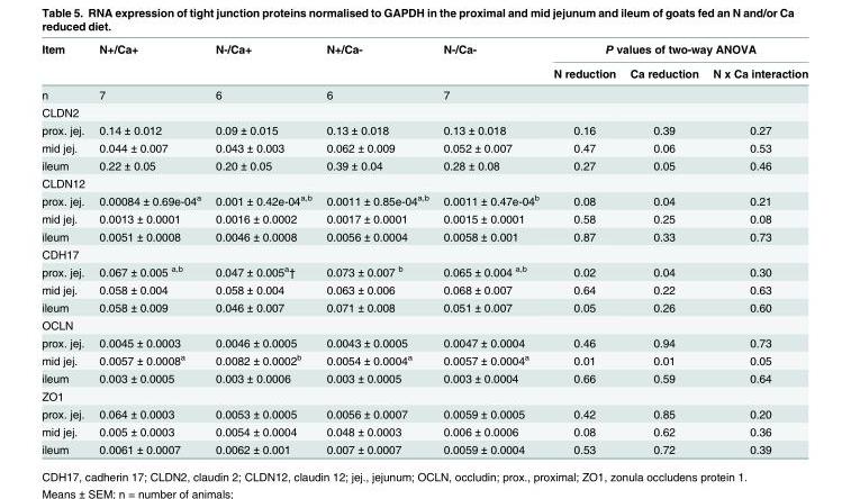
<table><thead><tr><td rowspan="2">Item</td><td rowspan="2">N+/Ca+</td><td rowspan="2">N-/Ca+</td><td rowspan="2">N+/Ca-</td><td rowspan="2">N-/Ca-</td><td colspan="3">P values of two-way ANOVA</td></tr><tr><td>N reduction</td><td>Ca reduction</td><td>N x Ca interaction</td></tr></thead><tbody><tr><td>n</td><td>7</td><td>6</td><td>6</td><td>7</td><td></td><td></td><td></td></tr><tr><td colspan="8">CLDN2</td></tr><tr><td>prox. jej.</td><td>0.14 ± 0.012</td><td>0.09 ± 0.015</td><td>0.13 ± 0.018</td><td>0.13 ± 0.018</td><td>0.16</td><td>0.39</td><td>0.27</td></tr><tr><td>mid jej.</td><td>0.044 ± 0.007</td><td>0.043 ± 0.003</td><td>0.062 ± 0.009</td><td>0.052 ± 0.007</td><td>0.47</td><td>0.06</td><td>0.53</td></tr><tr><td>ileum</td><td>0.22 ± 0.05</td><td>0.20 ± 0.05</td><td>0.39 ± 0.04</td><td>0.28 ± 0.08</td><td>0.27</td><td>0.05</td><td>0.46</td></tr><tr><td colspan="8">CLDN12</td></tr><tr><td>prox. jej.</td><td>0.00084 ± 0.69e-04<sup>a</sup></td><td>0.001 ± 0.42e-04<sup>a,b</sup></td><td>0.0011 ± 0.85e-04<sup>a,b</sup></td><td>0.0011 ± 0.47e-04<sup>b</sup></td><td>0.08</td><td>0.04</td><td>0.21</td></tr><tr><td>mid jej.</td><td>0.0013 ± 0.0001</td><td>0.0016 ± 0.0002</td><td>0.0017 ± 0.0001</td><td>0.0015 ± 0.0001</td><td>0.58</td><td>0.25</td><td>0.08</td></tr><tr><td>ileum</td><td>0.0051 ± 0.0008</td><td>0.0046 ± 0.0008</td><td>0.0056 ± 0.0004</td><td>0.0058 ± 0.001</td><td>0.87</td><td>0.33</td><td>0.73</td></tr><tr><td colspan="8">CDH17</td></tr><tr><td>prox. jej.</td><td>0.067 ± 0.005 <sup>a,b</sup></td><td>0.047 ± 0.005<sup>a</sup>†</td><td>0.073 ± 0.007 <sup>b</sup></td><td>0.065 ± 0.004 <sup>a,b</sup></td><td>0.02</td><td>0.04</td><td>0.30</td></tr><tr><td>mid jej.</td><td>0.058 ± 0.004</td><td>0.058 ± 0.004</td><td>0.063 ± 0.006</td><td>0.068 ± 0.007</td><td>0.64</td><td>0.22</td><td>0.63</td></tr><tr><td>ileum</td><td>0.058 ± 0.009</td><td>0.046 ± 0.007</td><td>0.071 ± 0.008</td><td>0.051 ± 0.007</td><td>0.05</td><td>0.26</td><td>0.60</td></tr><tr><td colspan="8">OCLN</td></tr><tr><td>prox. jej.</td><td>0.0045 ± 0.0003</td><td>0.0046 ± 0.0005</td><td>0.0043 ± 0.0005</td><td>0.0047 ± 0.0004</td><td>0.46</td><td>0.94</td><td>0.73</td></tr><tr><td>mid jej.</td><td>0.0057 ± 0.0008<sup>a</sup></td><td>0.0082 ± 0.0002<sup>b</sup></td><td>0.0054 ± 0.0004<sup>a</sup></td><td>0.0057 ± 0.0004<sup>a</sup></td><td>0.01</td><td>0.01</td><td>0.05</td></tr><tr><td>ileum</td><td>0.003 ± 0.0005</td><td>0.003 ± 0.0006</td><td>0.003 ± 0.0005</td><td>0.003 ± 0.0004</td><td>0.66</td><td>0.59</td><td>0.64</td></tr><tr><td colspan="8">ZO1</td></tr><tr><td>prox. jej.</td><td>0.064 ± 0.0003</td><td>0.0053 ± 0.0005</td><td>0.0056 ± 0.0007</td><td>0.0059 ± 0.0005</td><td>0.42</td><td>0.85</td><td>0.20</td></tr><tr><td>mid jej.</td><td>0.005 ± 0.0003</td><td>0.0054 ± 0.0004</td><td>0.048 ± 0.0003</td><td>0.006 ± 0.0006</td><td>0.08</td><td>0.62</td><td>0.36</td></tr><tr><td>ileum</td><td>0.0061 ± 0.0007</td><td>0.0062 ± 0.001</td><td>0.007 ± 0.0007</td><td>0.0059 ± 0.0004</td><td>0.53</td><td>0.72</td><td>0.39</td></tr></tbody></table>